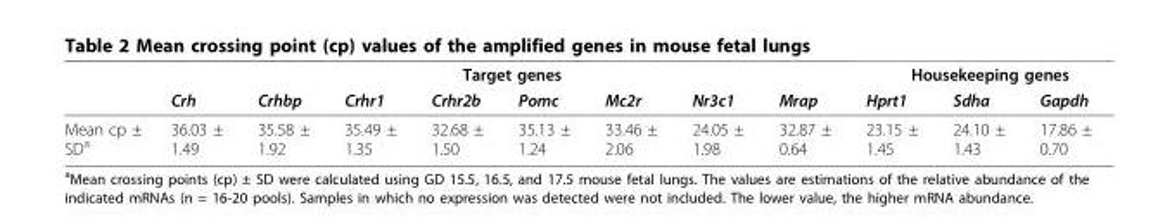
<table><thead><tr><td rowspan="2"></td><td colspan="8">Target genes</td><td colspan="3">Housekeeping genes</td></tr><tr><td>Crh</td><td>Crhbp</td><td>Crhr1</td><td>Crhr2b</td><td>Pomc</td><td>Mc2r</td><td>Nr3c1</td><td>Mrap</td><td>Hprt1</td><td>Sdha</td><td>Gapdh</td></tr></thead><tbody><tr><td>Mean cp ± SD<sup>a</sup></td><td>36.03 ± 1.49</td><td>35.58 ± 1.92</td><td>35.49 ± 1.35</td><td>32.68 ± 1.50</td><td>35.13 ± 1.24</td><td>33.46 ± 2.06</td><td>24.05 ± 1.98</td><td>32.87 ± 0.64</td><td>23.15 ± 1.45</td><td>24.10 ± 1.43</td><td>17.86 ± 0.70</td></tr></tbody></table>